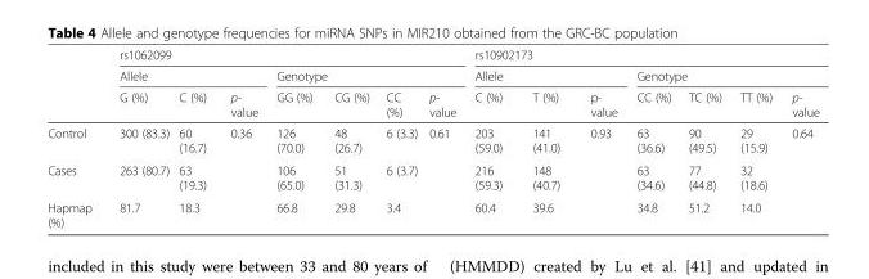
<table><thead><tr><td rowspan="3"></td><td colspan="7">rs1062099</td><td colspan="7">rs10902173</td></tr><tr><td colspan="3">Allele</td><td colspan="4">Genotype</td><td colspan="3">Allele</td><td colspan="4">Genotype</td></tr><tr><td>G (%)</td><td>C (%)</td><td>p- value</td><td>GG (%)</td><td>CG (%)</td><td>CC (%)</td><td>p- value</td><td>C (%)</td><td>T (%)</td><td>p- value</td><td>CC (%)</td><td>TC (%)</td><td>TT (%)</td><td>p- value</td></tr></thead><tbody><tr><td>Control</td><td>300 (83.3)</td><td>60 (16.7)</td><td rowspan="2">0.36</td><td>126 (70.0)</td><td>48 (26.7)</td><td>6 (3.3)</td><td rowspan="2">0.61</td><td>203 (59.0)</td><td>141 (41.0)</td><td rowspan="2">0.93</td><td>63 (36.6)</td><td>90 (49.5)</td><td>29 (15.9)</td><td rowspan="2">0.64</td></tr><tr><td>Cases</td><td>263 (80.7)</td><td>63 (19.3)</td><td>106 (65.0)</td><td>51 (31.3)</td><td>6 (3.7)</td><td>216 (59.3)</td><td>148 (40.7)</td><td>63 (34.6)</td><td>77 (44.8)</td><td>32 (18.6)</td></tr><tr><td>Hapmap (%)</td><td>81.7</td><td>18.3</td><td></td><td>66.8</td><td>29.8</td><td>3.4</td><td></td><td>60.4</td><td>39.6</td><td></td><td>34.8</td><td>51.2</td><td>14.0</td><td></td></tr></tbody></table>